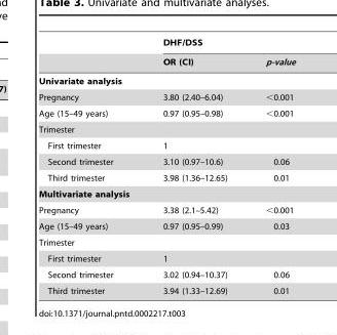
<table><thead><tr><td rowspan="2"></td><td colspan="2">DHF/DSS</td></tr><tr><td>OR (CI)</td><td>p-value</td></tr></thead><tbody><tr><td colspan="3">Univariate analysis</td></tr><tr><td>Pregnancy</td><td>3.80 (2.40–6.04)</td><td>&lt;0.001</td></tr><tr><td>Age (15–49 years)</td><td>0.97 (0.95–0.98)</td><td>&lt;0.001</td></tr><tr><td colspan="3">Trimester</td></tr><tr><td>First trimester</td><td>1</td><td></td></tr><tr><td>Second trimester</td><td>3.10 (0.97–10.6)</td><td>0.06</td></tr><tr><td>Third trimester</td><td>3.98 (1.36–12.65)</td><td>0.01</td></tr><tr><td colspan="3">Multivariate analysis</td></tr><tr><td>Pregnancy</td><td>3.38 (2.1–5.42)</td><td>&lt;0.001</td></tr><tr><td>Age (15–49 years)</td><td>0.97 (0.95–0.99)</td><td>0.03</td></tr><tr><td colspan="3">Trimester</td></tr><tr><td>First trimester</td><td>1</td><td></td></tr><tr><td>Second trimester</td><td>3.02 (0.94–10.37)</td><td>0.06</td></tr><tr><td>Third trimester</td><td>3.94 (1.33–12.69)</td><td>0.01</td></tr></tbody></table>